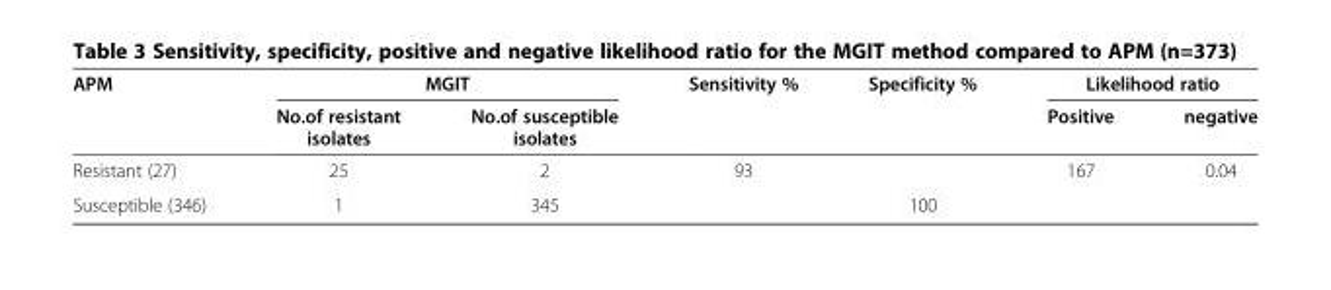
<table><thead><tr><td rowspan="2">APM</td><td colspan="2">MGIT</td><td rowspan="2">Sensitivity %</td><td rowspan="2">Specificity %</td><td colspan="2">Likelihood ratio</td></tr><tr><td>No.of resistant isolates</td><td>No.of susceptible isolates</td><td>Positive</td><td>negative</td></tr></thead><tbody><tr><td>Resistant (27)</td><td>25</td><td>2</td><td>93</td><td></td><td>167</td><td>0.04</td></tr><tr><td>Susceptible (346)</td><td>1</td><td>345</td><td></td><td>100</td><td></td><td></td></tr></tbody></table>